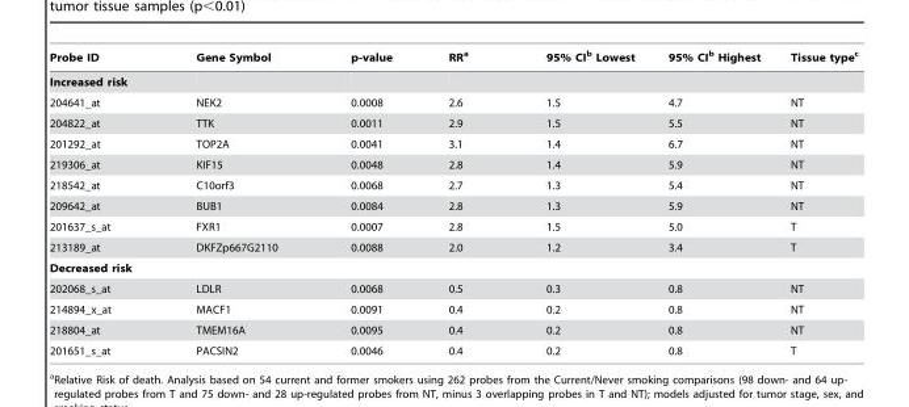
<table><thead><tr><td>Probe ID</td><td>Gene Symbol</td><td>p-value</td><td>RR<sup>a</sup></td><td>95% CI<sup>b</sup> Lowest</td><td>95% CI<sup>b</sup> Highest</td><td>Tissue type<sup>c</sup></td></tr></thead><tbody><tr><td colspan="7">Increased risk</td></tr><tr><td>204641_at</td><td>NEK2</td><td>0.0008</td><td>2.6</td><td>1.5</td><td>4.7</td><td>NT</td></tr><tr><td>204822_at</td><td>TTK</td><td>0.0011</td><td>2.9</td><td>1.5</td><td>5.5</td><td>NT</td></tr><tr><td>201292_at</td><td>TOP2A</td><td>0.0041</td><td>3.1</td><td>1.4</td><td>6.7</td><td>NT</td></tr><tr><td>219306_at</td><td>KIF15</td><td>0.0048</td><td>2.8</td><td>1.4</td><td>5.9</td><td>NT</td></tr><tr><td>218542_at</td><td>C10orf3</td><td>0.0068</td><td>2.7</td><td>1.3</td><td>5.4</td><td>NT</td></tr><tr><td>209642_at</td><td>BUB1</td><td>0.0084</td><td>2.8</td><td>1.3</td><td>5.9</td><td>NT</td></tr><tr><td>201637_s_at</td><td>FXR1</td><td>0.0007</td><td>2.8</td><td>1.5</td><td>5.0</td><td>T</td></tr><tr><td>213189_at</td><td>DKFZp667G2110</td><td>0.0088</td><td>2.0</td><td>1.2</td><td>3.4</td><td>T</td></tr><tr><td colspan="7">Decreased risk</td></tr><tr><td>202068_s_at</td><td>LDLR</td><td>0.0068</td><td>0.5</td><td>0.3</td><td>0.8</td><td>NT</td></tr><tr><td>214894_x_at</td><td>MACF1</td><td>0.0091</td><td>0.4</td><td>0.2</td><td>0.8</td><td>NT</td></tr><tr><td>218804_at</td><td>TMEM16A</td><td>0.0095</td><td>0.4</td><td>0.2</td><td>0.8</td><td>NT</td></tr><tr><td>201651_s_at</td><td>PACSIN2</td><td>0.0046</td><td>0.4</td><td>0.2</td><td>0.8</td><td>T</td></tr></tbody></table>